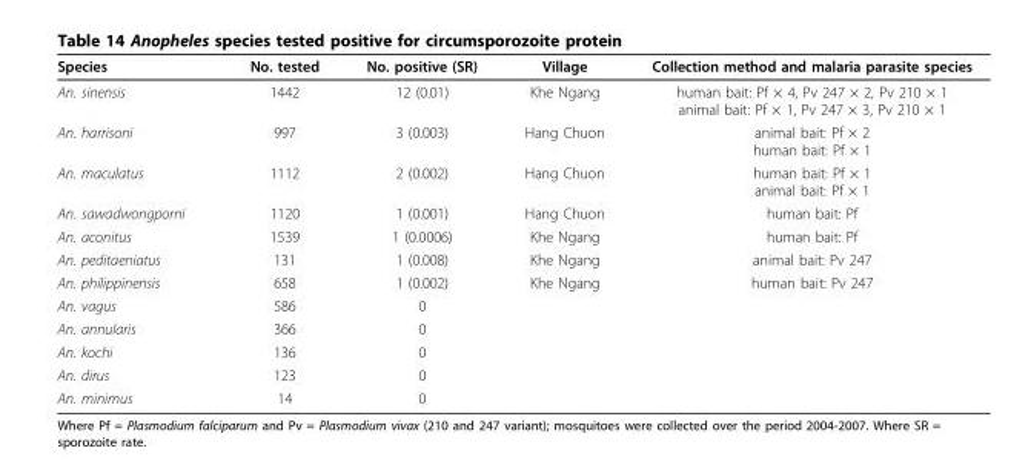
<table><thead><tr><td>Species</td><td>No. tested</td><td>No. positive (SR)</td><td>Village</td><td>Collection method and malaria parasite species</td></tr></thead><tbody><tr><td>An. sinensis</td><td>1442</td><td>12 (0.01)</td><td>Khe Ngang</td><td>human bait: Pf × 4, Pv 247 × 2, Pv 210 × 1 animal bait: Pf × 1, Pv 247 × 3, Pv 210 × 1</td></tr><tr><td>An. harrisoni</td><td>997</td><td>3 (0.003)</td><td>Hang Chuon</td><td>animal bait: Pf × 2 human bait: Pf × 1</td></tr><tr><td>An. maculatus</td><td>1112</td><td>2 (0.002)</td><td>Hang Chuon</td><td>human bait: Pf × 1 animal bait: Pf × 1</td></tr><tr><td>An. sawadwongporni</td><td>1120</td><td>1 (0.001)</td><td>Hang Chuon</td><td>human bait: Pf</td></tr><tr><td>An. aconitus</td><td>1539</td><td>1 (0.0006)</td><td>Khe Ngang</td><td>human bait: Pf</td></tr><tr><td>An. peditaeniatus</td><td>131</td><td>1 (0.008)</td><td>Khe Ngang</td><td>animal bait: Pv 247</td></tr><tr><td>An. philippinensis</td><td>658</td><td>1 (0.002)</td><td>Khe Ngang</td><td>human bait: Pv 247</td></tr><tr><td>An. vagus</td><td>586</td><td>0</td><td></td><td></td></tr><tr><td>An. annularis</td><td>366</td><td>0</td><td></td><td></td></tr><tr><td>An. kochi</td><td>136</td><td>0</td><td></td><td></td></tr><tr><td>An. dirus</td><td>123</td><td>0</td><td></td><td></td></tr><tr><td>An. minimus</td><td>14</td><td>0</td><td></td><td></td></tr></tbody></table>